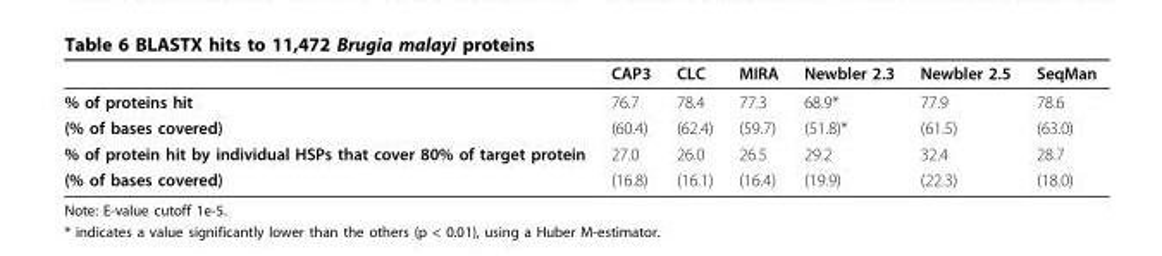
<table><thead><tr><td></td><td>CAP3</td><td>CLC</td><td>MIRA</td><td>Newbler 2.3</td><td>Newbler 2.5</td><td>SeqMan</td></tr></thead><tbody><tr><td>% of proteins hit</td><td>76.7</td><td>78.4</td><td>77.3</td><td>68.9*</td><td>77.9</td><td>78.6</td></tr><tr><td>(% of bases covered)</td><td>(60.4)</td><td>(62.4)</td><td>(59.7)</td><td>(51.8)*</td><td>(61.5)</td><td>(63.0)</td></tr><tr><td>% of protein hit by individual HSPs that cover 80% of target protein</td><td>27.0</td><td>26.0</td><td>26.5</td><td>29.2</td><td>32.4</td><td>28.7</td></tr><tr><td>(% of bases covered)</td><td>(16.8)</td><td>(16.1)</td><td>(16.4)</td><td>(19.9)</td><td>(22.3)</td><td>(18.0)</td></tr></tbody></table>